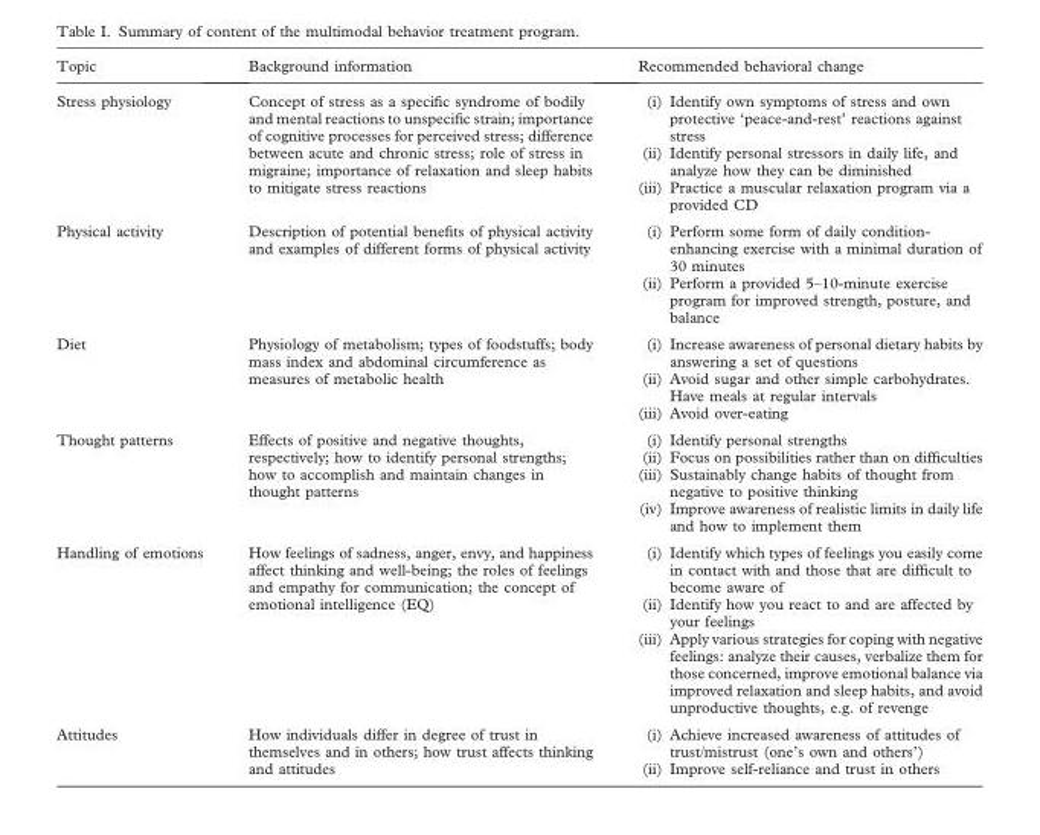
<table><thead><tr><td>Topic</td><td>Background information</td><td>Recommended behavioral change</td></tr></thead><tbody><tr><td>Stress physiology</td><td>Concept of stress as a specific syndrome of bodily and mental reactions to unspecific strain; importance of cognitive processes for perceived stress; difference between acute and chronic stress; role of stress in migraine; importance of relaxation and sleep habits to mitigate stress reactions</td><td>(i) Identify own symptoms of stress and own protective ‘peace-and-rest’ reactions against stress (ii) Identify personal stressors in daily life, and analyze how they can be diminished (iii) Practice a muscular relaxation program via a provided CD</td></tr><tr><td>Physical activity</td><td>Description of potential benefits of physical activity and examples of different forms of physical activity</td><td>(i) Perform some form of daily condition- enhancing exercise with a minimal duration of 30 minutes (ii) Perform a provided 5–10-minute exercise program for improved strength, posture, and balance</td></tr><tr><td>Diet</td><td>Physiology of metabolism; types of foodstuffs; body mass index and abdominal circumference as measures of metabolic health</td><td>(i) Increase awareness of personal dietary habits by answering a set of questions (ii) Avoid sugar and other simple carbohydrates. Have meals at regular intervals (iii) Avoid over-eating</td></tr><tr><td>Thought patterns</td><td>Effects of positive and negative thoughts, respectively; how to identify personal strengths; how to accomplish and maintain changes in thought patterns</td><td>(i) Identify personal strengths (ii) Focus on possibilities rather than on difficulties (iii) Sustainably change habits of thought from negative to positive thinking (iv) Improve awareness of realistic limits in daily life and how to implement them</td></tr><tr><td>Handling of emotions</td><td>How feelings of sadness, anger, envy, and happiness affect thinking and well-being; the roles of feelings and empathy for communication; the concept of emotional intelligence (EQ)</td><td>(i) Identify which types of feelings you easily come in contact with and those that are difficult to become aware of (ii) Identify how you react to and are affected by your feelings (iii) Apply various strategies for coping with negative feelings: analyze their causes, verbalize them for those concerned, improve emotional balance via improved relaxation and sleep habits, and avoid unproductive thoughts, e.g. of revenge</td></tr><tr><td>Attitudes</td><td>How individuals differ in degree of trust in themselves and in others; how trust affects thinking and attitudes</td><td>(i) Achieve increased awareness of attitudes of trust/mistrust (one’s own and others’) (ii) Improve self-reliance and trust in others</td></tr></tbody></table>